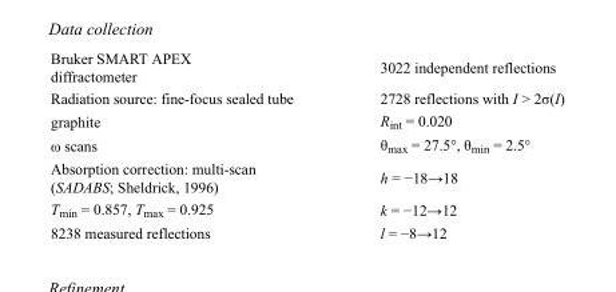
<table><tbody><tr><td>Bruker SMART APEX diffractometer</td><td>3022 independent reflections</td></tr><tr><td>Radiation source: fine-focus sealed tube</td><td>2728 reflections with I &gt; 2σ(I)</td></tr><tr><td>graphite</td><td>R<sub>int</sub> = 0.020</td></tr><tr><td>ω scans</td><td>θ<sub>max</sub> = 27.5°, θ<sub>min</sub> = 2.5°</td></tr><tr><td>Absorption correction: multi-scan (SADABS; Sheldrick, 1996)</td><td>h = −18→18</td></tr><tr><td>T<sub>min</sub> = 0.857, T<sub>max</sub> = 0.925</td><td>k = −12→12</td></tr><tr><td>8238 measured reflections</td><td>l = −8→12</td></tr></tbody></table>